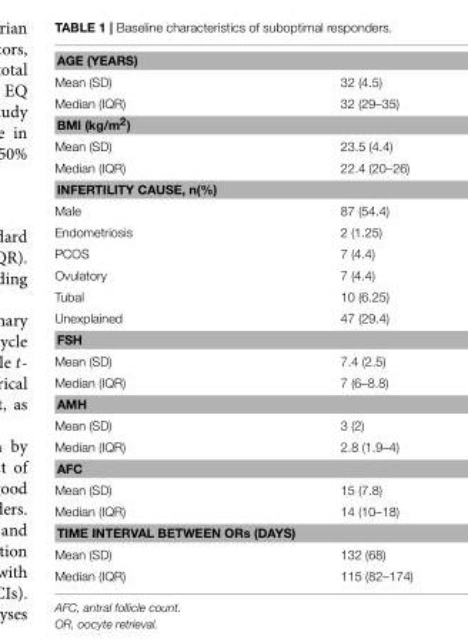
<table><tbody><tr><td colspan="2">AGE (YEARS)</td></tr><tr><td>Mean (SD)</td><td>32 (4.5)</td></tr><tr><td>Median (IQR)</td><td>32 (29–35)</td></tr><tr><td colspan="2">BMI (kg/m<sup>2</sup>)</td></tr><tr><td>Mean (SD)</td><td>23.5 (4.4)</td></tr><tr><td>Median (IQR)</td><td>22.4 (20–26)</td></tr><tr><td colspan="2">INFERTILITY CAUSE, n(%)</td></tr><tr><td>Male</td><td>87 (54.4)</td></tr><tr><td>Endometriosis</td><td>2 (1.25)</td></tr><tr><td>PCOS</td><td>7 (4.4)</td></tr><tr><td>Ovulatory</td><td>7 (4.4)</td></tr><tr><td>Tubal</td><td>10 (6.25)</td></tr><tr><td>Unexplained</td><td>47 (29.4)</td></tr><tr><td colspan="2">FSH</td></tr><tr><td>Mean (SD)</td><td>7.4 (2.5)</td></tr><tr><td>Median (IQR)</td><td>7 (6–8.8)</td></tr><tr><td colspan="2">AMH</td></tr><tr><td>Mean (SD)</td><td>3 (2)</td></tr><tr><td>Median (IQR)</td><td>2.8 (1.9–4)</td></tr><tr><td colspan="2">AFC</td></tr><tr><td>Mean (SD)</td><td>15 (7.8)</td></tr><tr><td>Median (IQR)</td><td>14 (10–18)</td></tr><tr><td colspan="2">TIME INTERVAL BETWEEN ORs (DAYS)</td></tr><tr><td>Mean (SD)</td><td>132 (68)</td></tr><tr><td>Median (IQR)</td><td>115 (82–174)</td></tr></tbody></table>